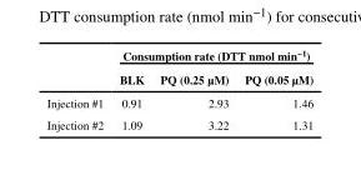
<table><thead><tr><td rowspan="2"></td><td colspan="3">Consumption rate (DTT nmol min<sup>−1</sup>)</td></tr><tr><td>BLK</td><td>PQ (0.25 μM)</td><td>PQ (0.05 μM)</td></tr></thead><tbody><tr><td>Injection #1</td><td>0.91</td><td>2.93</td><td>1.46</td></tr><tr><td>Injection #2</td><td>1.09</td><td>3.22</td><td>1.31</td></tr></tbody></table>